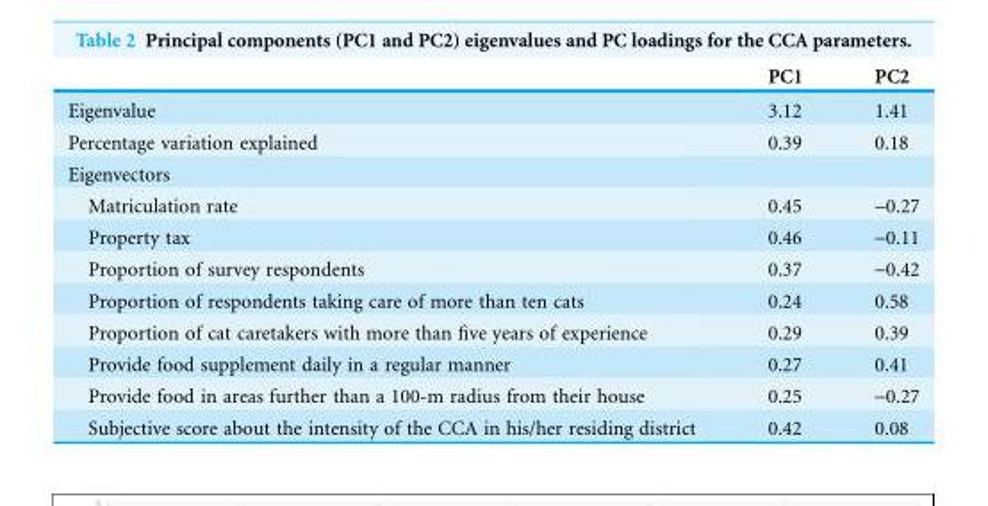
<table><thead><tr><td></td><td>PC1</td><td>PC2</td></tr></thead><tbody><tr><td>Eigenvalue</td><td>3.12</td><td>1.41</td></tr><tr><td>Percentage variation explained</td><td>0.39</td><td>0.18</td></tr><tr><td colspan="3">Eigenvectors</td></tr><tr><td>Matriculation rate</td><td>0.45</td><td>-0.27</td></tr><tr><td>Property tax</td><td>0.46</td><td>-0.11</td></tr><tr><td>Proportion of survey respondents</td><td>0.37</td><td>-0.42</td></tr><tr><td>Proportion of respondents taking care of more than ten cats</td><td>0.24</td><td>0.58</td></tr><tr><td>Proportion of cat caretakers with more than five years of experience</td><td>0.29</td><td>0.39</td></tr><tr><td>Provide food supplement daily in a regular manner</td><td>0.27</td><td>0.41</td></tr><tr><td>Provide food in areas further than a 100-m radius from their house</td><td>0.25</td><td>-0.27</td></tr><tr><td>Subjective score about the intensity of the CCA in his/her residing district</td><td>0.42</td><td>0.08</td></tr></tbody></table>